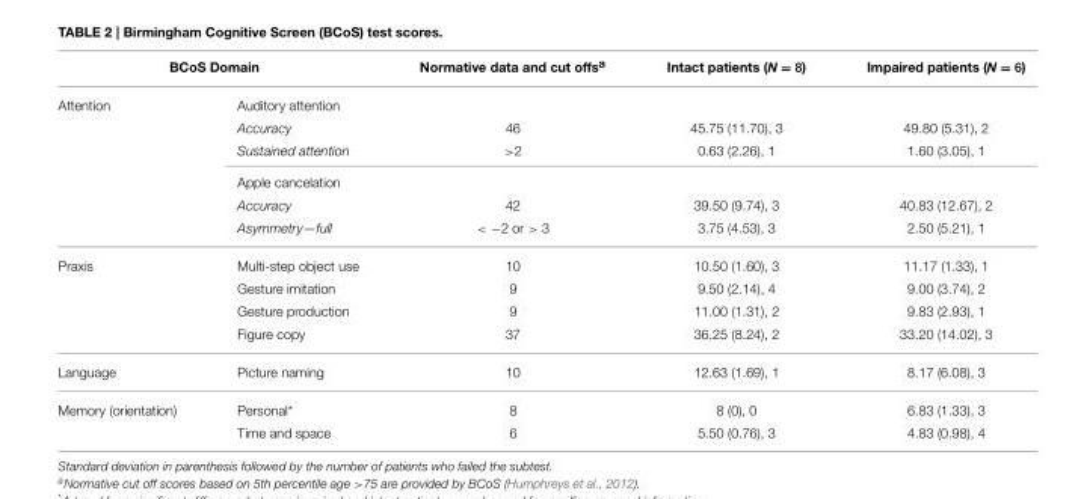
<table><thead><tr><td colspan="2">BCoS Domain</td><td rowspan="2">Normative data and cut offs<sup>a</sup></td><td rowspan="2">Intact patients (N = 8)</td><td rowspan="2">Impaired patients (N = 6)</td></tr><tr><td>Attention</td><td>Auditory attention</td></tr></thead><tbody><tr><td></td><td>Accuracy</td><td>46</td><td>45.75 (11.70), 3</td><td>49.80 (5.31), 2</td></tr><tr><td></td><td>Sustained attention</td><td>&gt;2</td><td>0.63 (2.26), 1</td><td>1.60 (3.05), 1</td></tr><tr><td></td><td>Apple cancelation</td><td></td><td></td><td></td></tr><tr><td></td><td>Accuracy</td><td>42</td><td>39.50 (9.74), 3</td><td>40.83 (12.67), 2</td></tr><tr><td></td><td>Asymmetry—full</td><td>&lt; −2 or &gt; 3</td><td>3.75 (4.53), 3</td><td>2.50 (5.21), 1</td></tr><tr><td rowspan="4">Praxis</td><td>Multi-step object use</td><td>10</td><td>10.50 (1.60), 3</td><td>11.17 (1.33), 1</td></tr><tr><td>Gesture imitation</td><td>9</td><td>9.50 (2.14), 4</td><td>9.00 (3.74), 2</td></tr><tr><td>Gesture production</td><td>9</td><td>11.00 (1.31), 2</td><td>9.83 (2.93), 1</td></tr><tr><td>Figure copy</td><td>37</td><td>36.25 (8.24), 2</td><td>33.20 (14.02), 3</td></tr><tr><td>Language</td><td>Picture naming</td><td>10</td><td>12.63 (1.69), 1</td><td>8.17 (6.08), 3</td></tr><tr><td rowspan="2">Memory (orientation)</td><td>Personal*</td><td>8</td><td>8 (0), 0</td><td>6.83 (1.33), 3</td></tr><tr><td>Time and space</td><td>6</td><td>5.50 (0.76), 3</td><td>4.83 (0.98), 4</td></tr></tbody></table>